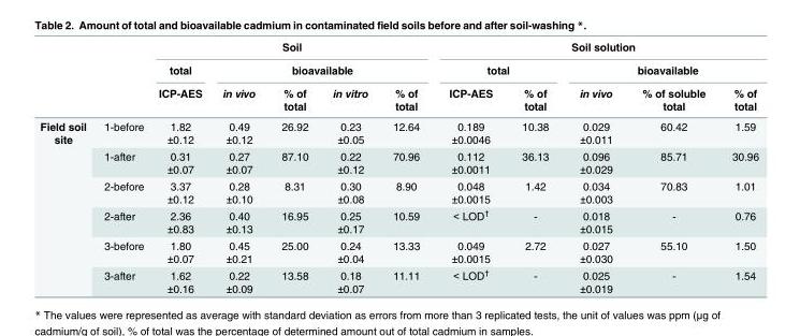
<table><thead><tr><td rowspan="3"></td><td rowspan="3"></td><td colspan="5">Soil</td><td colspan="5">Soil solution</td></tr><tr><td rowspan="2">total ICP-AES</td><td colspan="4">bioavailable</td><td colspan="2">total</td><td colspan="3">bioavailable</td></tr><tr><td>in vivo</td><td>% of total</td><td>in vitro</td><td>% of total</td><td>ICP-AES</td><td>% of total</td><td>in vivo</td><td>% of soluble total</td><td>% of total</td></tr></thead><tbody><tr><td rowspan="6">Field soil site</td><td>1-before</td><td>1.82 ±0.12</td><td>0.49 ±0.12</td><td>26.92</td><td>0.23 ±0.05</td><td>12.64</td><td>0.189 ±0.0046</td><td>10.38</td><td>0.029 ±0.011</td><td>60.42</td><td>1.59</td></tr><tr><td>1-after</td><td>0.31 ±0.07</td><td>0.27 ±0.07</td><td>87.10</td><td>0.22 ±0.12</td><td>70.96</td><td>0.112 ±0.0011</td><td>36.13</td><td>0.096 ±0.029</td><td>85.71</td><td>30.96</td></tr><tr><td>2-before</td><td>3.37 ±0.12</td><td>0.28 ±0.10</td><td>8.31</td><td>0.30 ±0.08</td><td>8.90</td><td>0.048 ±0.0015</td><td>1.42</td><td>0.034 ±0.003</td><td>70.83</td><td>1.01</td></tr><tr><td>2-after</td><td>2.36 ±0.83</td><td>0.40 ±0.13</td><td>16.95</td><td>0.25 ±0.17</td><td>10.59</td><td>&lt; LOD<sup>†</sup></td><td>-</td><td>0.018 ±0.015</td><td>-</td><td>0.76</td></tr><tr><td>3-before</td><td>1.80 ±0.07</td><td>0.45 ±0.21</td><td>25.00</td><td>0.24 ±0.04</td><td>13.33</td><td>0.049 ±0.0015</td><td>2.72</td><td>0.027 ±0.030</td><td>55.10</td><td>1.50</td></tr><tr><td>3-after</td><td>1.62 ±0.16</td><td>0.22 ±0.09</td><td>13.58</td><td>0.18 ±0.07</td><td>11.11</td><td>&lt; LOD<sup>†</sup></td><td>-</td><td>0.025 ±0.019</td><td>-</td><td>1.54</td></tr></tbody></table>